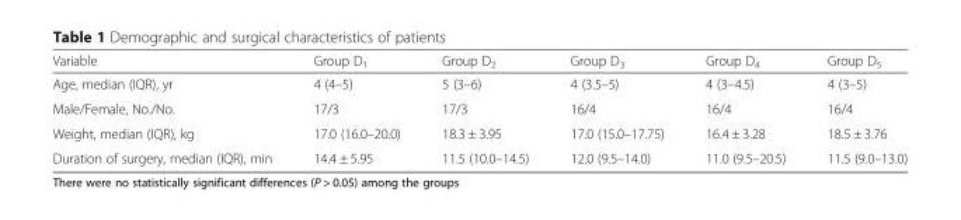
<table><thead><tr><td>Variable</td><td>Group D<sub>1</sub></td><td>Group D<sub>2</sub></td><td>Group D<sub>3</sub></td><td>Group D<sub>4</sub></td><td>Group D<sub>5</sub></td></tr></thead><tbody><tr><td>Age, median (IQR), yr</td><td>4 (4–5)</td><td>5 (3–6)</td><td>4 (3.5–5)</td><td>4 (3–4.5)</td><td>4 (3–5)</td></tr><tr><td>Male/Female, No./No.</td><td>17/3</td><td>17/3</td><td>16/4</td><td>16/4</td><td>16/4</td></tr><tr><td>Weight, median (IQR), kg</td><td>17.0 (16.0–20.0)</td><td>18.3 ± 3.95</td><td>17.0 (15.0–17.75)</td><td>16.4 ± 3.28</td><td>18.5 ± 3.76</td></tr><tr><td>Duration of surgery, median (IQR), min</td><td>14.4 ± 5.95</td><td>11.5 (10.0–14.5)</td><td>12.0 (9.5–14.0)</td><td>11.0 (9.5–20.5)</td><td>11.5 (9.0–13.0)</td></tr></tbody></table>